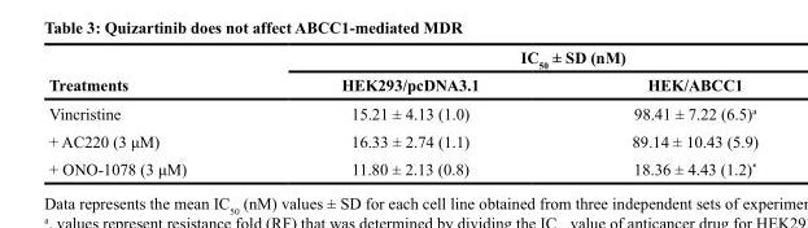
<table><thead><tr><td rowspan="2">Treatments</td><td colspan="2">IC<sub>50</sub> ± SD (nM)</td></tr><tr><td>HEK293/pcDNA3.1</td><td>HEK/ABCC1</td></tr></thead><tbody><tr><td>Vincristine</td><td>15.21 ± 4.13 (1.0)</td><td>98.41 ± 7.22 (6.5)<sup>a</sup></td></tr><tr><td>+ AC220 (3 μM)</td><td>16.33 ± 2.74 (1.1)</td><td>89.14 ± 10.43 (5.9)</td></tr><tr><td>+ ONO-1078 (3 μM)</td><td>11.80 ± 2.13 (0.8)</td><td>18.36 ± 4.43 (1.2)*</td></tr></tbody></table>